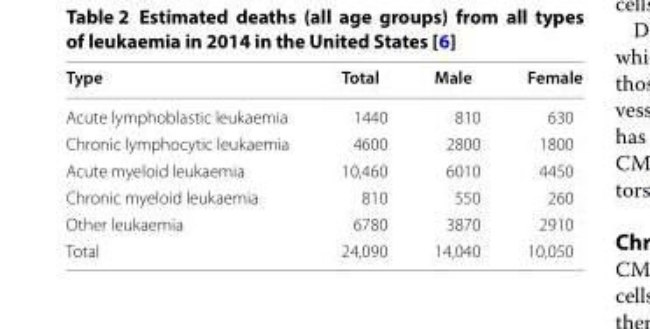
<table><thead><tr><td>Type</td><td>Total</td><td>Male</td><td>Female</td></tr></thead><tbody><tr><td>Acute lymphoblastic leukaemia</td><td>1440</td><td>810</td><td>630</td></tr><tr><td>Chronic lymphocytic leukaemia</td><td>4600</td><td>2800</td><td>1800</td></tr><tr><td>Acute myeloid leukaemia</td><td>10,460</td><td>6010</td><td>4450</td></tr><tr><td>Chronic myeloid leukaemia</td><td>810</td><td>550</td><td>260</td></tr><tr><td>Other leukaemia</td><td>6780</td><td>3870</td><td>2910</td></tr><tr><td>Total</td><td>24,090</td><td>14,040</td><td>10,050</td></tr></tbody></table>